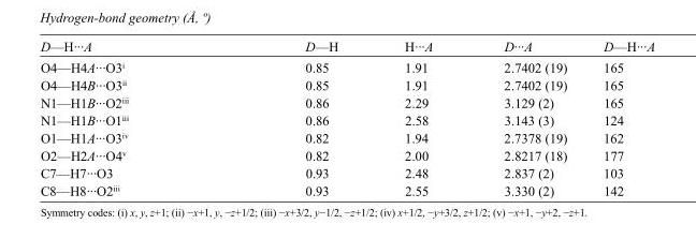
<table><tbody><tr><td>D—H···A</td><td>D—H</td><td>H···A</td><td>D···A</td><td>D—H···A</td></tr><tr><td>O4—H4A···O3<sup>i</sup></td><td>0.85</td><td>1.91</td><td>2.7402 (19)</td><td>165</td></tr><tr><td>O4—H4B···O3<sup>ii</sup></td><td>0.85</td><td>1.91</td><td>2.7402 (19)</td><td>165</td></tr><tr><td>N1—H1B···O2<sup>iii</sup></td><td>0.86</td><td>2.29</td><td>3.129 (2)</td><td>165</td></tr><tr><td>N1—H1B···O1<sup>iii</sup></td><td>0.86</td><td>2.58</td><td>3.143 (3)</td><td>124</td></tr><tr><td>O1—H1A···O3<sup>iv</sup></td><td>0.82</td><td>1.94</td><td>2.7378 (19)</td><td>162</td></tr><tr><td>O2—H2A···O4<sup>v</sup></td><td>0.82</td><td>2.00</td><td>2.8217 (18)</td><td>177</td></tr><tr><td>C7—H7···O3</td><td>0.93</td><td>2.48</td><td>2.837 (2)</td><td>103</td></tr><tr><td>C8—H8···O2<sup>iii</sup></td><td>0.93</td><td>2.55</td><td>3.330 (2)</td><td>142</td></tr></tbody></table>